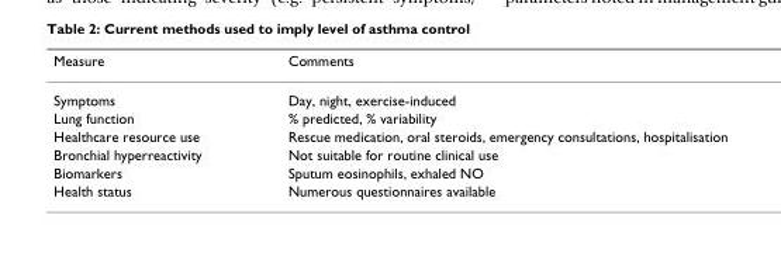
<table><thead><tr><td>Measure</td><td>Comments</td></tr></thead><tbody><tr><td>Symptoms</td><td>Day, night, exercise-induced</td></tr><tr><td>Lung function</td><td>% predicted, % variability</td></tr><tr><td>Healthcare resource use</td><td>Rescue medication, oral steroids, emergency consultations, hospitalisation</td></tr><tr><td>Bronchial hyperreactivity</td><td>Not suitable for routine clinical use</td></tr><tr><td>Biomarkers</td><td>Sputum eosinophils, exhaled NO</td></tr><tr><td>Health status</td><td>Numerous questionnaires available</td></tr></tbody></table>